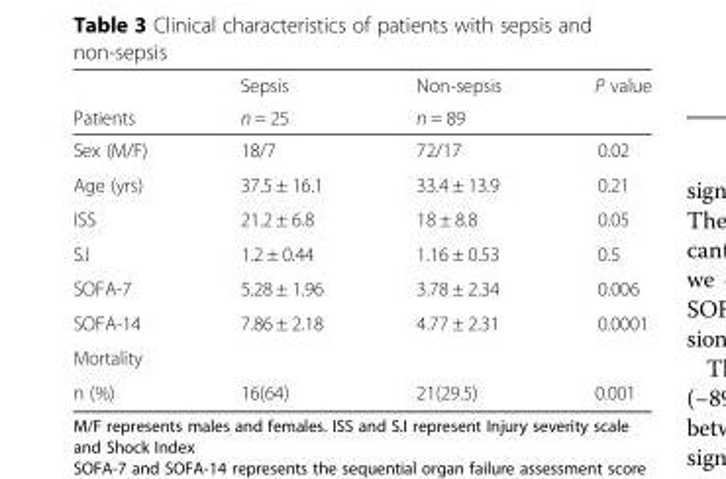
<table><thead><tr><td rowspan="2">Patients</td><td rowspan="2">Sepsis n = 25</td><td rowspan="2">Non-sepsis n = 89</td><td rowspan="2">P value</td></tr><tr></tr></thead><tbody><tr><td>Sex (M/F)</td><td>18/7</td><td>72/17</td><td>0.02</td></tr><tr><td>Age (yrs)</td><td>37.5 ± 16.1</td><td>33.4 ± 13.9</td><td>0.21</td></tr><tr><td>ISS</td><td>21.2 ± 6.8</td><td>18 ± 8.8</td><td>0.05</td></tr><tr><td>S.I</td><td>1.2 ± 0.44</td><td>1.16 ± 0.53</td><td>0.5</td></tr><tr><td>SOFA-7</td><td>5.28 ± 1.96</td><td>3.78 ± 2.34</td><td>0.006</td></tr><tr><td>SOFA-14</td><td>7.86 ± 2.18</td><td>4.77 ± 2.31</td><td>0.0001</td></tr><tr><td colspan="4">Mortality</td></tr><tr><td>n (%)</td><td>16(64)</td><td>21(29.5)</td><td>0.001</td></tr></tbody></table>